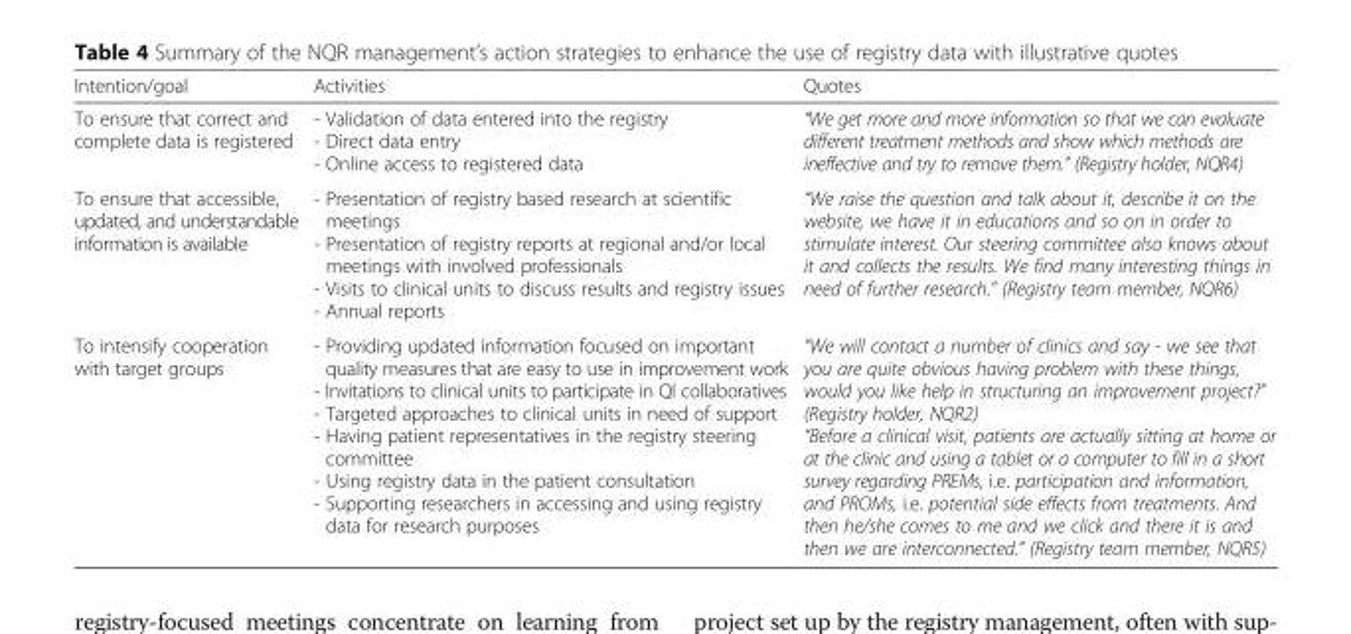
<table><thead><tr><td>Intention/goal</td><td>Activities</td><td>Quotes</td></tr></thead><tbody><tr><td>To ensure that correct and complete data is registered</td><td>- Validation of data entered into the registry - Direct data entry - Online access to registered data</td><td>“We get more and more information so that we can evaluate different treatment methods and show which methods are ineffective and try to remove them.” (Registry holder, NQR4)</td></tr><tr><td>To ensure that accessible, updated, and understandable information is available</td><td>- Presentation of registry based research at scientific meetings - Presentation of registry reports at regional and/or local meetings with involved professionals - Visits to clinical units to discuss results and registry issues - Annual reports</td><td>“We raise the question and talk about it, describe it on the website, we have it in educations and so on in order to stimulate interest. Our steering committee also knows about it and collects the results. We find many interesting things in need of further research.” (Registry team member, NQR6)</td></tr><tr><td>To intensify cooperation with target groups</td><td>- Providing updated information focused on important quality measures that are easy to use in improvement work - Invitations to clinical units to participate in QI collaboratives - Targeted approaches to clinical units in need of support - Having patient representatives in the registry steering committee - Using registry data in the patient consultation - Supporting researchers in accessing and using registry data for research purposes</td><td>“We will contact a number of clinics and say - we see that you are quite obvious having problem with these things, would you like help in structuring an improvement project?” (Registry holder, NQR2) “Before a clinical visit, patients are actually sitting at home or at the clinic and using a tablet or a computer to fill in a short survey regarding PREMs, i.e. participation and information, and PROMs, i.e. potential side effects from treatments. And then he/she comes to me and we click and there it is and then we are interconnected.” (Registry team member, NQR5)</td></tr></tbody></table>